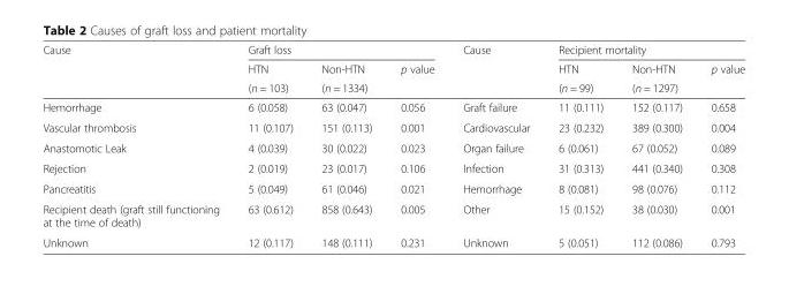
<table><thead><tr><td rowspan="3">Cause</td><td colspan="3">Graft loss</td><td rowspan="3">Cause</td><td colspan="3">Recipient mortality</td></tr><tr><td rowspan="2">HTN (n = 103)</td><td rowspan="2">Non-HTN (n = 1334)</td><td rowspan="2">p value</td><td rowspan="2">HTN (n = 99)</td><td rowspan="2">Non-HTN (n = 1297)</td><td rowspan="2">p value</td></tr><tr></tr></thead><tbody><tr><td>Hemorrhage</td><td>6 (0.058)</td><td>63 (0.047)</td><td>0.056</td><td>Graft failure</td><td>11 (0.111)</td><td>152 (0.117)</td><td>0.658</td></tr><tr><td>Vascular thrombosis</td><td>11 (0.107)</td><td>151 (0.113)</td><td>0.001</td><td>Cardiovascular</td><td>23 (0.232)</td><td>389 (0.300)</td><td>0.004</td></tr><tr><td>Anastomotic Leak</td><td>4 (0.039)</td><td>30 (0.022)</td><td>0.023</td><td>Organ failure</td><td>6 (0.061)</td><td>67 (0.052)</td><td>0.089</td></tr><tr><td>Rejection</td><td>2 (0.019)</td><td>23 (0.017)</td><td>0.106</td><td>Infection</td><td>31 (0.313)</td><td>441 (0.340)</td><td>0.308</td></tr><tr><td>Pancreatitis</td><td>5 (0.049)</td><td>61 (0.046)</td><td>0.021</td><td>Hemorrhage</td><td>8 (0.081)</td><td>98 (0.076)</td><td>0.112</td></tr><tr><td>Recipient death (graft still functioning at the time of death)</td><td>63 (0.612)</td><td>858 (0.643)</td><td>0.005</td><td>Other</td><td>15 (0.152)</td><td>38 (0.030)</td><td>0.001</td></tr><tr><td>Unknown</td><td>12 (0.117)</td><td>148 (0.111)</td><td>0.231</td><td>Unknown</td><td>5 (0.051)</td><td>112 (0.086)</td><td>0.793</td></tr></tbody></table>